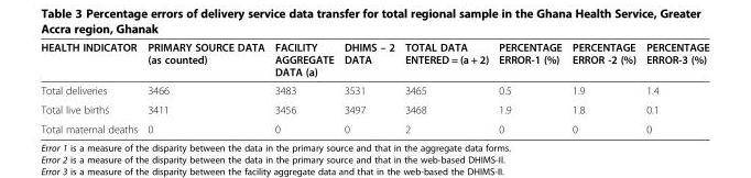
<table><thead><tr><td>HEALTH INDICATOR</td><td>PRIMARY SOURCE DATA (as counted)</td><td>FACILITY AGGREGATE DATA (a)</td><td>DHIMS – 2 DATA</td><td>TOTAL DATA ENTERED = (a + 2)</td><td>PERCENTAGE ERROR-1 (%)</td><td>PERCENTAGE ERROR -2 (%)</td><td>PERCENTAGE ERROR-3 (%)</td></tr></thead><tbody><tr><td>Total deliveries</td><td>3466</td><td>3483</td><td>3531</td><td>3465</td><td>0.5</td><td>1.9</td><td>1.4</td></tr><tr><td>Total live births</td><td>3411</td><td>3456</td><td>3497</td><td>3468</td><td>1.9</td><td>1.8</td><td>0.1</td></tr><tr><td>Total maternal deaths</td><td>0</td><td>0</td><td>0</td><td>2</td><td>0</td><td>0</td><td>0</td></tr></tbody></table>